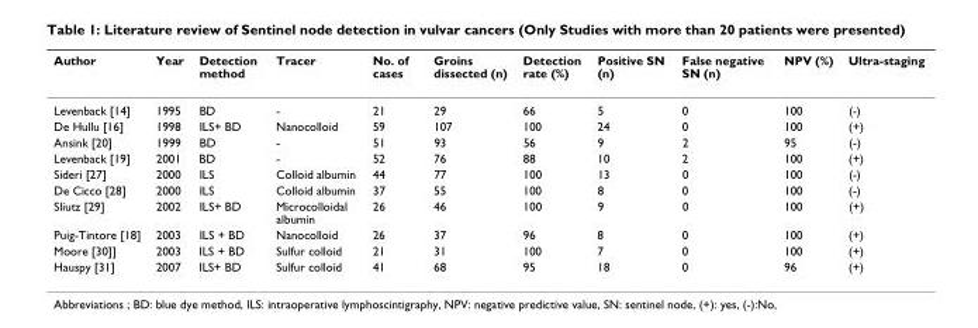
<table><thead><tr><td>Author</td><td>Year</td><td>Detection method</td><td>Tracer</td><td>No. of cases</td><td>Groins dissected (n)</td><td>Detection rate (%)</td><td>Positive SN (n)</td><td>False negative SN (n)</td><td>NPV (%)</td><td>Ultra-staging</td></tr></thead><tbody><tr><td>Levenback [14]</td><td>1995</td><td>BD</td><td>-</td><td>21</td><td>29</td><td>66</td><td>5</td><td>0</td><td>100</td><td>(-)</td></tr><tr><td>De Hullu [16]</td><td>1998</td><td>ILS+ BD</td><td>Nanocolloid</td><td>59</td><td>107</td><td>100</td><td>24</td><td>0</td><td>100</td><td>(+)</td></tr><tr><td>Ansink [20]</td><td>1999</td><td>BD</td><td>-</td><td>51</td><td>93</td><td>56</td><td>9</td><td>2</td><td>95</td><td>(-)</td></tr><tr><td>Levenback [19]</td><td>2001</td><td>BD</td><td>-</td><td>52</td><td>76</td><td>88</td><td>10</td><td>2</td><td>100</td><td>(+)</td></tr><tr><td>Sideri [27]</td><td>2000</td><td>ILS</td><td>Colloid albumin</td><td>44</td><td>77</td><td>100</td><td>13</td><td>0</td><td>100</td><td>(-)</td></tr><tr><td>De Cicco [28]</td><td>2000</td><td>ILS</td><td>Colloid albumin</td><td>37</td><td>55</td><td>100</td><td>8</td><td>0</td><td>100</td><td>(-)</td></tr><tr><td>Sliutz [29]</td><td>2002</td><td>ILS+ BD</td><td>Microcolloidal albumin</td><td>26</td><td>46</td><td>100</td><td>9</td><td>0</td><td>100</td><td>(+)</td></tr><tr><td>Puig-Tintore [18]</td><td>2003</td><td>ILS + BD</td><td>Nanocolloid</td><td>26</td><td>37</td><td>96</td><td>8</td><td>0</td><td>100</td><td>(+)</td></tr><tr><td>Moore [30]]</td><td>2003</td><td>ILS + BD</td><td>Sulfur colloid</td><td>21</td><td>31</td><td>100</td><td>7</td><td>0</td><td>100</td><td>(+)</td></tr><tr><td>Hauspy [31]</td><td>2007</td><td>ILS+ BD</td><td>Sulfur colloid</td><td>41</td><td>68</td><td>95</td><td>18</td><td>0</td><td>96</td><td>(+)</td></tr></tbody></table>